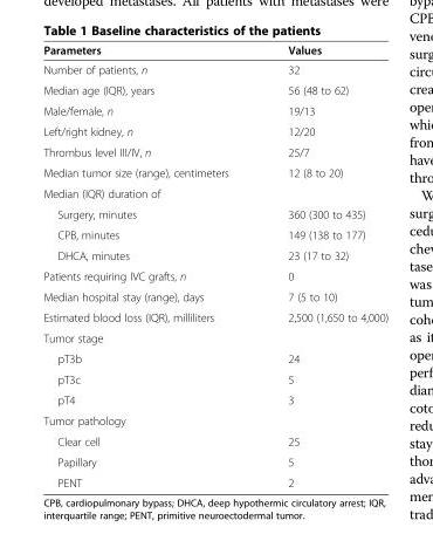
<table><thead><tr><td>Parameters</td><td>Values</td></tr></thead><tbody><tr><td>Number of patients, n</td><td>32</td></tr><tr><td>Median age (IQR), years</td><td>56 (48 to 62)</td></tr><tr><td>Male/female, n</td><td>19/13</td></tr><tr><td>Left/right kidney, n</td><td>12/20</td></tr><tr><td>Thrombus level III/IV, n</td><td>25/7</td></tr><tr><td>Median tumor size (range), centimeters</td><td>12 (8 to 20)</td></tr><tr><td colspan="2">Median (IQR) duration of</td></tr><tr><td>Surgery, minutes</td><td>360 (300 to 435)</td></tr><tr><td>CPB, minutes</td><td>149 (138 to 177)</td></tr><tr><td>DHCA, minutes</td><td>23 (17 to 32)</td></tr><tr><td>Patients requiring IVC grafts, n</td><td>0</td></tr><tr><td>Median hospital stay (range), days</td><td>7 (5 to 10)</td></tr><tr><td>Estimated blood loss (IQR), milliliters</td><td>2,500 (1,650 to 4,000)</td></tr><tr><td colspan="2">Tumor stage</td></tr><tr><td>pT3b</td><td>24</td></tr><tr><td>pT3c</td><td>5</td></tr><tr><td>pT4</td><td>3</td></tr><tr><td colspan="2">Tumor pathology</td></tr><tr><td>Clear cell</td><td>25</td></tr><tr><td>Papillary</td><td>5</td></tr><tr><td>PENT</td><td>2</td></tr></tbody></table>